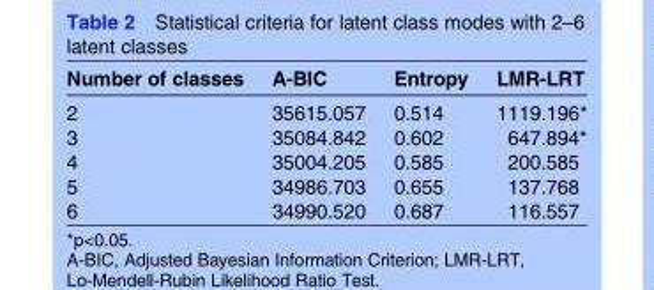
<table><thead><tr><td>Number of classes</td><td>A-BIC</td><td>Entropy</td><td>LMR-LRT</td></tr></thead><tbody><tr><td>2</td><td>35615.057</td><td>0.514</td><td>1119.196*</td></tr><tr><td>3</td><td>35084.842</td><td>0.602</td><td>647.894*</td></tr><tr><td>4</td><td>35004.205</td><td>0.585</td><td>200.585</td></tr><tr><td>5</td><td>34986.703</td><td>0.655</td><td>137.768</td></tr><tr><td>6</td><td>34990.520</td><td>0.687</td><td>116.557</td></tr></tbody></table>